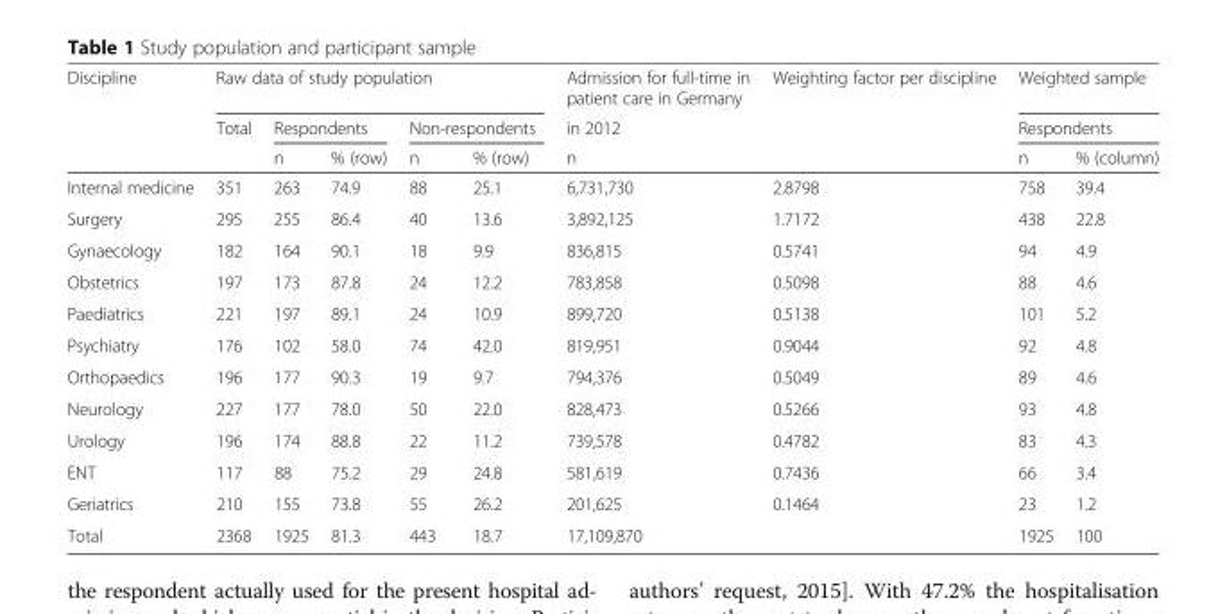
<table><thead><tr><td rowspan="3">Discipline</td><td colspan="5">Raw data of study population</td><td rowspan="3">Admission for full-time in patient care in Germany in 2012 n</td><td rowspan="3">Weighting factor per discipline</td><td rowspan="2" colspan="2">Weighted sample Respondents</td></tr><tr><td rowspan="2">Total</td><td colspan="2">Respondents</td><td colspan="2">Non-respondents</td></tr><tr><td>n</td><td>% (row)</td><td>n</td><td>% (row)</td><td>n</td><td>% (column)</td></tr></thead><tbody><tr><td>Internal medicine</td><td>351</td><td>263</td><td>74.9</td><td>88</td><td>25.1</td><td>6,731,730</td><td>2.8798</td><td>758</td><td>39.4</td></tr><tr><td>Surgery</td><td>295</td><td>255</td><td>86.4</td><td>40</td><td>13.6</td><td>3,892,125</td><td>1.7172</td><td>438</td><td>22.8</td></tr><tr><td>Gynaecology</td><td>182</td><td>164</td><td>90.1</td><td>18</td><td>9.9</td><td>836,815</td><td>0.5741</td><td>94</td><td>4.9</td></tr><tr><td>Obstetrics</td><td>197</td><td>173</td><td>87.8</td><td>24</td><td>12.2</td><td>783,858</td><td>0.5098</td><td>88</td><td>4.6</td></tr><tr><td>Paediatrics</td><td>221</td><td>197</td><td>89.1</td><td>24</td><td>10.9</td><td>899,720</td><td>0.5138</td><td>101</td><td>5.2</td></tr><tr><td>Psychiatry</td><td>176</td><td>102</td><td>58.0</td><td>74</td><td>42.0</td><td>819,951</td><td>0.9044</td><td>92</td><td>4.8</td></tr><tr><td>Orthopaedics</td><td>196</td><td>177</td><td>90.3</td><td>19</td><td>9.7</td><td>794,376</td><td>0.5049</td><td>89</td><td>4.6</td></tr><tr><td>Neurology</td><td>227</td><td>177</td><td>78.0</td><td>50</td><td>22.0</td><td>828,473</td><td>0.5266</td><td>93</td><td>4.8</td></tr><tr><td>Urology</td><td>196</td><td>174</td><td>88.8</td><td>22</td><td>11.2</td><td>739,578</td><td>0.4782</td><td>83</td><td>4.3</td></tr><tr><td>ENT</td><td>117</td><td>88</td><td>75.2</td><td>29</td><td>24.8</td><td>581,619</td><td>0.7436</td><td>66</td><td>3.4</td></tr><tr><td>Geriatrics</td><td>210</td><td>155</td><td>73.8</td><td>55</td><td>26.2</td><td>201,625</td><td>0.1464</td><td>23</td><td>1.2</td></tr><tr><td>Total</td><td>2368</td><td>1925</td><td>81.3</td><td>443</td><td>18.7</td><td>17,109,870</td><td></td><td>1925</td><td>100</td></tr></tbody></table>